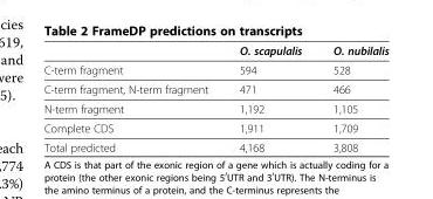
<table><thead><tr><td></td><td>O. scapulalis</td><td>O. nubilalis</td></tr></thead><tbody><tr><td>C-term fragment</td><td>594</td><td>528</td></tr><tr><td>C-term fragment, N-term fragment</td><td>471</td><td>466</td></tr><tr><td>N-term fragment</td><td>1,192</td><td>1,105</td></tr><tr><td>Complete CDS</td><td>1,911</td><td>1,709</td></tr><tr><td>Total predicted</td><td>4,168</td><td>3,808</td></tr></tbody></table>